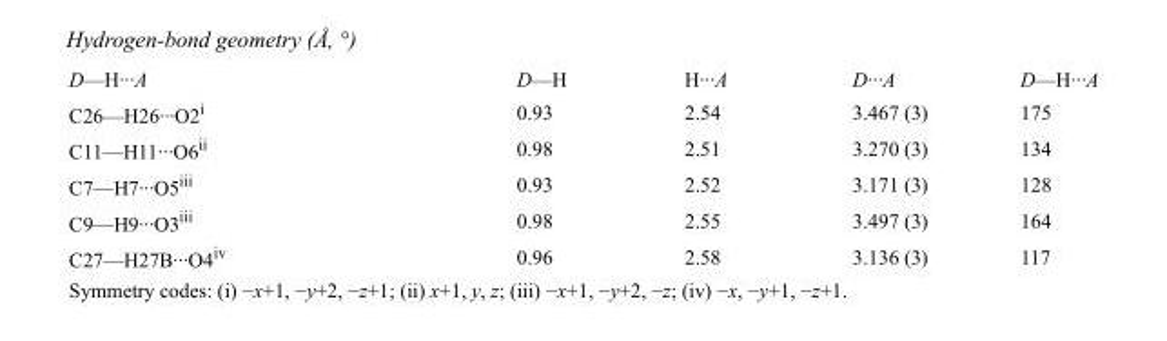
<table><tbody><tr><td>D—H···A</td><td>D—H</td><td>H···A</td><td>D···A</td><td>D—H···A</td></tr><tr><td>C26—H26···O2<sup>i</sup></td><td>0.93</td><td>2.54</td><td>3.467 (3)</td><td>175</td></tr><tr><td>C11—H11···O6<sup>ii</sup></td><td>0.98</td><td>2.51</td><td>3.270 (3)</td><td>134</td></tr><tr><td>C7—H7···O5<sup>iii</sup></td><td>0.93</td><td>2.52</td><td>3.171 (3)</td><td>128</td></tr><tr><td>C9—H9···O3<sup>iii</sup></td><td>0.98</td><td>2.55</td><td>3.497 (3)</td><td>164</td></tr><tr><td>C27—H27B···O4<sup>iv</sup></td><td>0.96</td><td>2.58</td><td>3.136 (3)</td><td>117</td></tr></tbody></table>